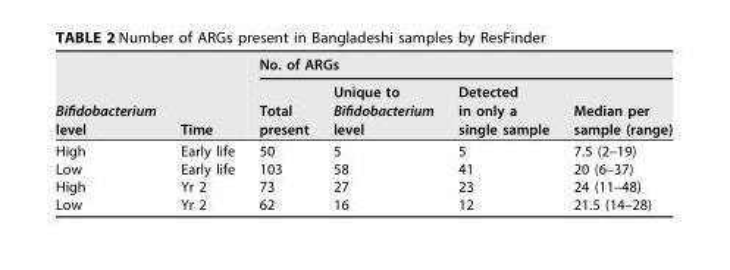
<table><thead><tr><td rowspan="2">Bifidobacterium level</td><td rowspan="2">Time</td><td colspan="4">No. of ARGs</td></tr><tr><td>Total present</td><td>Unique to Bifidobacterium level</td><td>Detected in only a single sample</td><td>Median per sample (range)</td></tr></thead><tbody><tr><td>High</td><td>Early life</td><td>50</td><td>5</td><td>5</td><td>7.5 (2–19)</td></tr><tr><td>Low</td><td>Early life</td><td>103</td><td>58</td><td>41</td><td>20 (6–37)</td></tr><tr><td>High</td><td>Yr 2</td><td>73</td><td>27</td><td>23</td><td>24 (11–48)</td></tr><tr><td>Low</td><td>Yr 2</td><td>62</td><td>16</td><td>12</td><td>21.5 (14–28)</td></tr></tbody></table>